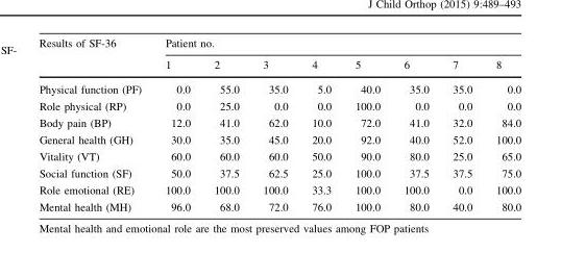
<table><thead><tr><td rowspan="2">Results of SF-36</td><td colspan="8">Patient no.</td></tr><tr><td>1</td><td>2</td><td>3</td><td>4</td><td>5</td><td>6</td><td>7</td><td>8</td></tr></thead><tbody><tr><td>Physical function (PF)</td><td>0.0</td><td>55.0</td><td>35.0</td><td>5.0</td><td>40.0</td><td>35.0</td><td>35.0</td><td>0.0</td></tr><tr><td>Role physical (RP)</td><td>0.0</td><td>25.0</td><td>0.0</td><td>0.0</td><td>100.0</td><td>0.0</td><td>0.0</td><td>0.0</td></tr><tr><td>Body pain (BP)</td><td>12.0</td><td>41.0</td><td>62.0</td><td>10.0</td><td>72.0</td><td>41.0</td><td>32.0</td><td>84.0</td></tr><tr><td>General health (GH)</td><td>30.0</td><td>35.0</td><td>45.0</td><td>20.0</td><td>92.0</td><td>40.0</td><td>52.0</td><td>100.0</td></tr><tr><td>Vitality (VT)</td><td>60.0</td><td>60.0</td><td>60.0</td><td>50.0</td><td>90.0</td><td>80.0</td><td>25.0</td><td>65.0</td></tr><tr><td>Social function (SF)</td><td>50.0</td><td>37.5</td><td>62.5</td><td>25.0</td><td>100.0</td><td>37.5</td><td>37.5</td><td>75.0</td></tr><tr><td>Role emotional (RE)</td><td>100.0</td><td>100.0</td><td>100.0</td><td>33.3</td><td>100.0</td><td>100.0</td><td>0.0</td><td>100.0</td></tr><tr><td>Mental health (MH)</td><td>96.0</td><td>68.0</td><td>72.0</td><td>76.0</td><td>100.0</td><td>80.0</td><td>40.0</td><td>80.0</td></tr></tbody></table>